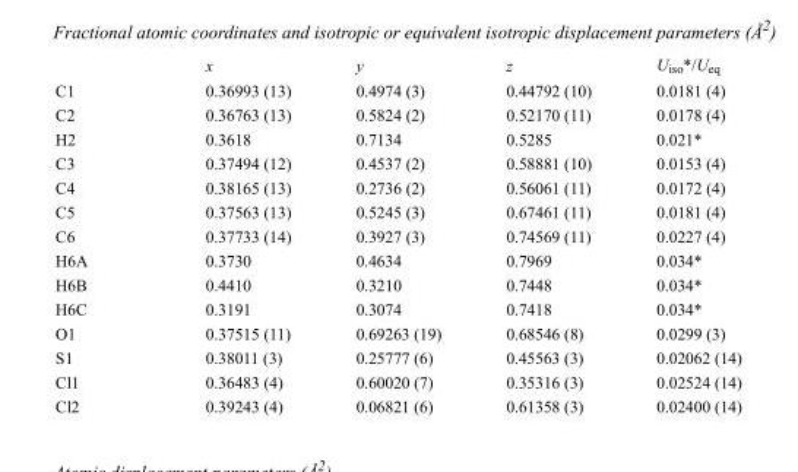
<table><thead><tr><td></td><td>x</td><td>y</td><td>z</td><td>U<sub>iso</sub>*/U<sub>eq</sub></td></tr></thead><tbody><tr><td>C1</td><td>0.36993 (13)</td><td>0.4974 (3)</td><td>0.44792 (10)</td><td>0.0181 (4)</td></tr><tr><td>C2</td><td>0.36763 (13)</td><td>0.5824 (2)</td><td>0.52170 (11)</td><td>0.0178 (4)</td></tr><tr><td>H2</td><td>0.3618</td><td>0.7134</td><td>0.5285</td><td>0.021*</td></tr><tr><td>C3</td><td>0.37494 (12)</td><td>0.4537 (2)</td><td>0.58881 (10)</td><td>0.0153 (4)</td></tr><tr><td>C4</td><td>0.38165 (13)</td><td>0.2736 (2)</td><td>0.56061 (11)</td><td>0.0172 (4)</td></tr><tr><td>C5</td><td>0.37563 (13)</td><td>0.5245 (3)</td><td>0.67461 (11)</td><td>0.0181 (4)</td></tr><tr><td>C6</td><td>0.37733 (14)</td><td>0.3927 (3)</td><td>0.74569 (11)</td><td>0.0227 (4)</td></tr><tr><td>H6A</td><td>0.3730</td><td>0.4634</td><td>0.7969</td><td>0.034*</td></tr><tr><td>H6B</td><td>0.4410</td><td>0.3210</td><td>0.7448</td><td>0.034*</td></tr><tr><td>H6C</td><td>0.3191</td><td>0.3074</td><td>0.7418</td><td>0.034*</td></tr><tr><td>O1</td><td>0.37515 (11)</td><td>0.69263 (19)</td><td>0.68546 (8)</td><td>0.0299 (3)</td></tr><tr><td>S1</td><td>0.38011 (3)</td><td>0.25777 (6)</td><td>0.45563 (3)</td><td>0.02062 (14)</td></tr><tr><td>Cl1</td><td>0.36483 (4)</td><td>0.60020 (7)</td><td>0.35316 (3)</td><td>0.02524 (14)</td></tr><tr><td>Cl2</td><td>0.39243 (4)</td><td>0.06821 (6)</td><td>0.61358 (3)</td><td>0.02400 (14)</td></tr></tbody></table>